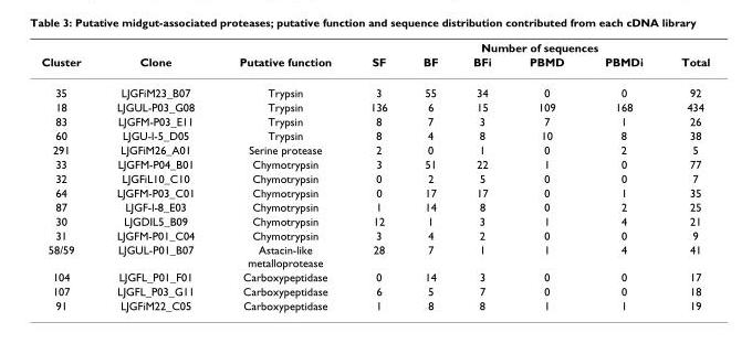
<table><thead><tr><td rowspan="2">Cluster</td><td rowspan="2">Clone</td><td rowspan="2">Putative function</td><td colspan="6">Number of sequences</td></tr><tr><td>SF</td><td>BF</td><td>BFi</td><td>PBMD</td><td>PBMDi</td><td>Total</td></tr></thead><tbody><tr><td>35</td><td>LJGFiM23_B07</td><td>Trypsin</td><td>3</td><td>55</td><td>34</td><td>0</td><td>0</td><td>92</td></tr><tr><td>18</td><td>LJGUL-P03_G08</td><td>Trypsin</td><td>136</td><td>6</td><td>15</td><td>109</td><td>168</td><td>434</td></tr><tr><td>83</td><td>LJGFM-P03_E11</td><td>Trypsin</td><td>8</td><td>7</td><td>3</td><td>7</td><td>1</td><td>26</td></tr><tr><td>60</td><td>LJGU-l-5_D05</td><td>Trypsin</td><td>8</td><td>4</td><td>8</td><td>10</td><td>8</td><td>38</td></tr><tr><td>291</td><td>LJGFiM26_A01</td><td>Serine protease</td><td>2</td><td>0</td><td>1</td><td>0</td><td>2</td><td>5</td></tr><tr><td>33</td><td>LJGFM-P04_B01</td><td>Chymotrypsin</td><td>3</td><td>51</td><td>22</td><td>1</td><td>0</td><td>77</td></tr><tr><td>32</td><td>LJGFiL10_C10</td><td>Chymotrypsin</td><td>0</td><td>2</td><td>5</td><td>0</td><td>0</td><td>7</td></tr><tr><td>64</td><td>LJGFM-P03_C01</td><td>Chymotrypsin</td><td>0</td><td>17</td><td>17</td><td>0</td><td>1</td><td>35</td></tr><tr><td>87</td><td>LJGF-l-8_E03</td><td>Chymotrypsin</td><td>1</td><td>14</td><td>8</td><td>0</td><td>2</td><td>25</td></tr><tr><td>30</td><td>LJGDIL5_B09</td><td>Chymotrypsin</td><td>12</td><td>1</td><td>3</td><td>1</td><td>4</td><td>21</td></tr><tr><td>31</td><td>LJGFM-P01_C04</td><td>Chymotrypsin</td><td>3</td><td>4</td><td>2</td><td>0</td><td>0</td><td>9</td></tr><tr><td>58/59</td><td>LJGUL-P01_B07</td><td>Astacin-like metalloprotease</td><td>28</td><td>7</td><td>1</td><td>1</td><td>4</td><td>41</td></tr><tr><td>104</td><td>LJGFL_P01_F01</td><td>Carboxypeptidase</td><td>0</td><td>14</td><td>3</td><td>0</td><td>0</td><td>17</td></tr><tr><td>107</td><td>LJGFL_P03_G11</td><td>Carboxypeptidase</td><td>6</td><td>5</td><td>7</td><td>0</td><td>0</td><td>18</td></tr><tr><td>91</td><td>LJGFiM22_C05</td><td>Carboxypeptidase</td><td>1</td><td>8</td><td>8</td><td>1</td><td>1</td><td>19</td></tr></tbody></table>